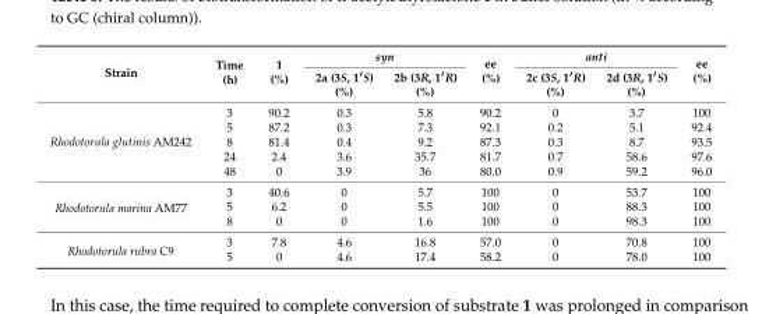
<table><thead><tr><td rowspan="2">Strain</td><td rowspan="2">Time (h)</td><td rowspan="2">1 (%)</td><td colspan="2">syn</td><td rowspan="2">ee (%)</td><td colspan="2">anti</td><td rowspan="2">ee (%)</td></tr><tr><td>2a (3S, 1′S) (%)</td><td>2b (3R, 1′R) (%)</td><td>2c (3S, 1′R) (%)</td><td>2d (3R, 1′S) (%)</td></tr></thead><tbody><tr><td rowspan="5">Rhodotorula glutinis AM242</td><td>3</td><td>90.2</td><td>0.3</td><td>5.8</td><td>90.2</td><td>0</td><td>3.7</td><td>100</td></tr><tr><td>5</td><td>87.2</td><td>0.3</td><td>7.3</td><td>92.1</td><td>0.2</td><td>5.1</td><td>92.4</td></tr><tr><td>8</td><td>81.4</td><td>0.4</td><td>9.2</td><td>87.3</td><td>0.3</td><td>8.7</td><td>93.5</td></tr><tr><td>24</td><td>2.4</td><td>3.6</td><td>35.7</td><td>81.7</td><td>0.7</td><td>58.6</td><td>97.6</td></tr><tr><td>48</td><td>0</td><td>3.9</td><td>36</td><td>80.0</td><td>0.9</td><td>59.2</td><td>96.0</td></tr><tr><td rowspan="3">Rhodotorula marina AM77</td><td>3</td><td>40.6</td><td>0</td><td>5.7</td><td>100</td><td>0</td><td>53.7</td><td>100</td></tr><tr><td>5</td><td>6.2</td><td>0</td><td>5.5</td><td>100</td><td>0</td><td>88.3</td><td>100</td></tr><tr><td>8</td><td>0</td><td>0</td><td>1.6</td><td>100</td><td>0</td><td>98.3</td><td>100</td></tr><tr><td rowspan="2">Rhodotorula rubra C9</td><td>3</td><td>7.8</td><td>4.6</td><td>16.8</td><td>57.0</td><td>0</td><td>70.8</td><td>100</td></tr><tr><td>5</td><td>0</td><td>4.6</td><td>17.4</td><td>58.2</td><td>0</td><td>78.0</td><td>100</td></tr></tbody></table>